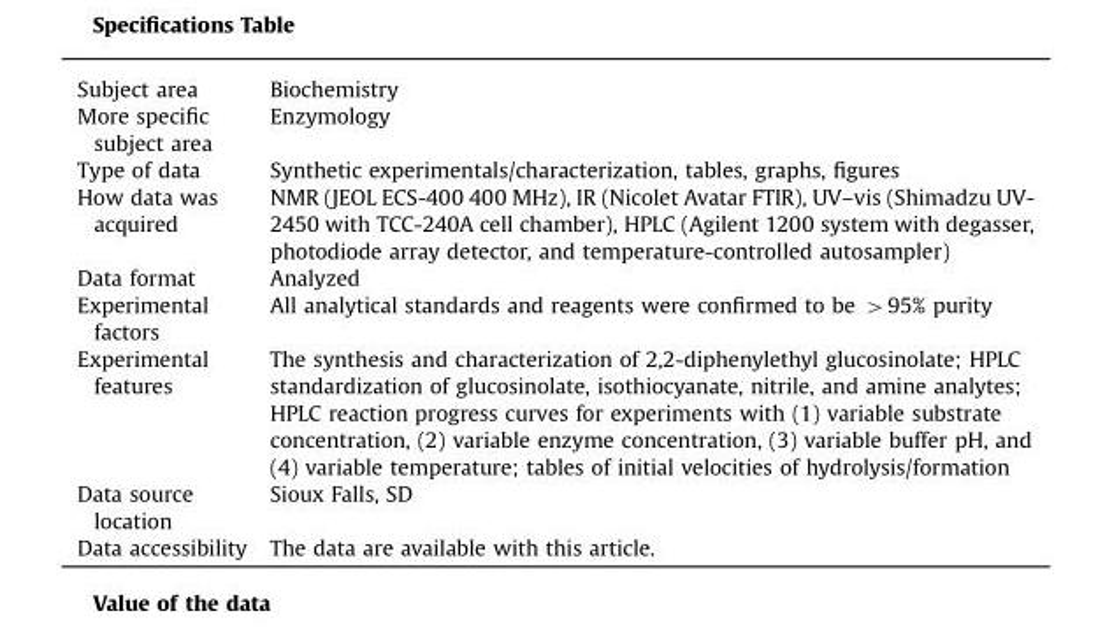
<table><tbody><tr><td>Subject area</td><td>Biochemistry</td></tr><tr><td>More specific subject area</td><td>Enzymology</td></tr><tr><td>Type of data</td><td>Synthetic experimentals/characterization, tables, graphs, figures</td></tr><tr><td>How data was acquired</td><td>NMR (JEOL ECS-400 400 MHz), IR (Nicolet Avatar FTIR), UV–vis (Shimadzu UV- 2450 with TCC-240A cell chamber), HPLC (Agilent 1200 system with degasser, photodiode array detector, and temperature-controlled autosampler)</td></tr><tr><td>Data format</td><td>Analyzed</td></tr><tr><td>Experimental factors</td><td>All analytical standards and reagents were confirmed to be &gt;95% purity</td></tr><tr><td>Experimental features</td><td>The synthesis and characterization of 2,2-diphenylethyl glucosinolate; HPLC standardization of glucosinolate, isothiocyanate, nitrile, and amine analytes; HPLC reaction progress curves for experiments with (1) variable substrate concentration, (2) variable enzyme concentration, (3) variable buffer pH, and (4) variable temperature; tables of initial velocities of hydrolysis/formation</td></tr><tr><td>Data source location</td><td>Sioux Falls, SD</td></tr><tr><td>Data accessibility</td><td>The data are available with this article.</td></tr></tbody></table>